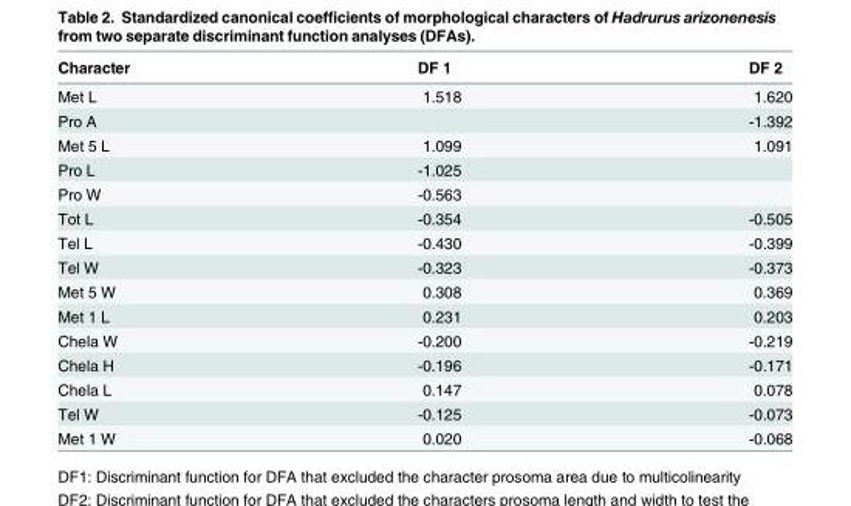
<table><thead><tr><td>Character</td><td>DF 1</td><td>DF 2</td></tr></thead><tbody><tr><td>Met L</td><td>1.518</td><td>1.620</td></tr><tr><td>Pro A</td><td></td><td>-1.392</td></tr><tr><td>Met 5 L</td><td>1.099</td><td>1.091</td></tr><tr><td>Pro L</td><td>-1.025</td><td></td></tr><tr><td>Pro W</td><td>-0.563</td><td></td></tr><tr><td>Tot L</td><td>-0.354</td><td>-0.505</td></tr><tr><td>Tel L</td><td>-0.430</td><td>-0.399</td></tr><tr><td>Tel W</td><td>-0.323</td><td>-0.373</td></tr><tr><td>Met 5 W</td><td>0.308</td><td>0.369</td></tr><tr><td>Met 1 L</td><td>0.231</td><td>0.203</td></tr><tr><td>Chela W</td><td>-0.200</td><td>-0.219</td></tr><tr><td>Chela H</td><td>-0.196</td><td>-0.171</td></tr><tr><td>Chela L</td><td>0.147</td><td>0.078</td></tr><tr><td>Tel W</td><td>-0.125</td><td>-0.073</td></tr><tr><td>Met 1 W</td><td>0.020</td><td>-0.068</td></tr></tbody></table>